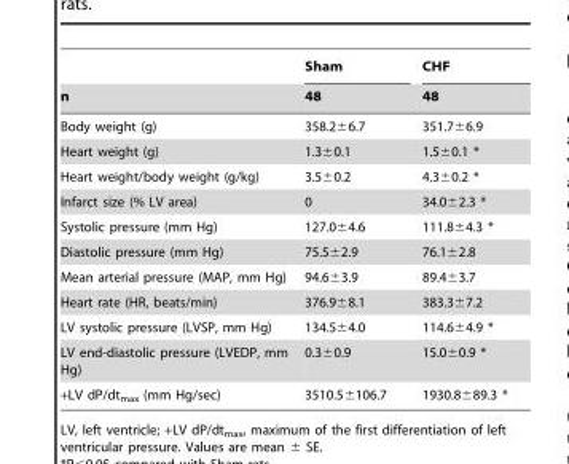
<table><thead><tr><td rowspan="2">n</td><td rowspan="2">Sham 48</td><td rowspan="2">CHF 48</td></tr><tr></tr></thead><tbody><tr><td>Body weight (g)</td><td>358.2±6.7</td><td>351.7±6.9</td></tr><tr><td>Heart weight (g)</td><td>1.3±0.1</td><td>1.5±0.1 *</td></tr><tr><td>Heart weight/body weight (g/kg)</td><td>3.5±0.2</td><td>4.3±0.2 *</td></tr><tr><td>Infarct size (% LV area)</td><td>0</td><td>34.0±2.3 *</td></tr><tr><td>Systolic pressure (mm Hg)</td><td>127.0±4.6</td><td>111.8±4.3 *</td></tr><tr><td>Diastolic pressure (mm Hg)</td><td>75.5±2.9</td><td>76.1±2.8</td></tr><tr><td>Mean arterial pressure (MAP, mm Hg)</td><td>94.6±3.9</td><td>89.4±3.7</td></tr><tr><td>Heart rate (HR, beats/min)</td><td>376.9±8.1</td><td>383.3±7.2</td></tr><tr><td>LV systolic pressure (LVSP, mm Hg)</td><td>134.5±4.0</td><td>114.6±4.9 *</td></tr><tr><td>LV end-diastolic pressure (LVEDP, mm Hg)</td><td>0.3±0.9</td><td>15.0±0.9 *</td></tr><tr><td>+LV dP/dt<sub>max</sub> (mm Hg/sec)</td><td>3510.5±106.7</td><td>1930.8±89.3 *</td></tr></tbody></table>